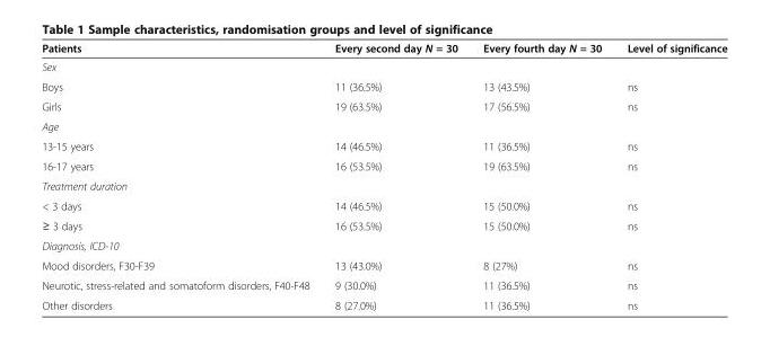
<table><thead><tr><td>Patients</td><td>Every second day N = 30</td><td>Every fourth day N = 30</td><td>Level of significance</td></tr></thead><tbody><tr><td colspan="4">Sex</td></tr><tr><td>Boys</td><td>11 (36.5%)</td><td>13 (43.5%)</td><td>ns</td></tr><tr><td>Girls</td><td>19 (63.5%)</td><td>17 (56.5%)</td><td>ns</td></tr><tr><td colspan="4">Age</td></tr><tr><td>13-15 years</td><td>14 (46.5%)</td><td>11 (36.5%)</td><td>ns</td></tr><tr><td>16-17 years</td><td>16 (53.5%)</td><td>19 (63.5%)</td><td>ns</td></tr><tr><td colspan="4">Treatment duration</td></tr><tr><td>&lt; 3 days</td><td>14 (46.5%)</td><td>15 (50.0%)</td><td>ns</td></tr><tr><td>≥ 3 days</td><td>16 (53.5%)</td><td>15 (50.0%)</td><td>ns</td></tr><tr><td colspan="4">Diagnosis, ICD-10</td></tr><tr><td>Mood disorders, F30-F39</td><td>13 (43.0%)</td><td>8 (27%)</td><td>ns</td></tr><tr><td>Neurotic, stress-related and somatoform disorders, F40-F48</td><td>9 (30.0%)</td><td>11 (36.5%)</td><td>ns</td></tr><tr><td>Other disorders</td><td>8 (27.0%)</td><td>11 (36.5%)</td><td>ns</td></tr></tbody></table>